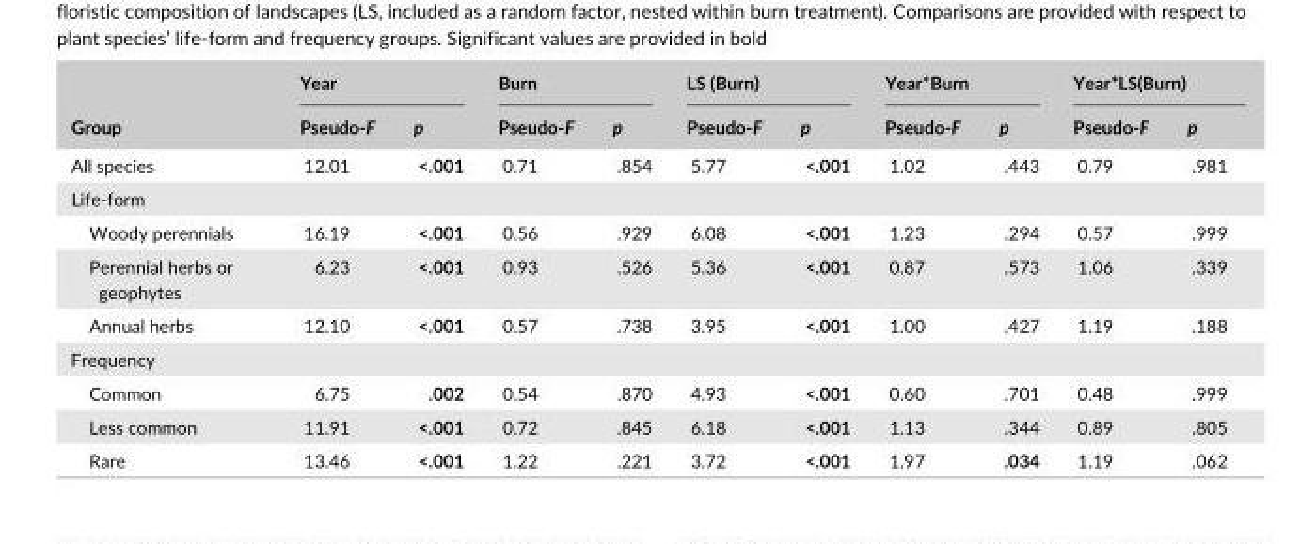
<table><thead><tr><td rowspan="2">Group</td><td colspan="2">Year</td><td colspan="2">Burn</td><td colspan="2">LS (Burn)</td><td colspan="2">Year*Burn</td><td colspan="2">Year*LS(Burn)</td></tr><tr><td>Pseudo- F</td><td>p</td><td>Pseudo- F</td><td>p</td><td>Pseudo- F</td><td>p</td><td>Pseudo- F</td><td>p</td><td>Pseudo- F</td><td>p</td></tr></thead><tbody><tr><td>All species</td><td>12.01</td><td>&lt;.001</td><td>0.71</td><td>.854</td><td>5.77</td><td>&lt;.001</td><td>1.02</td><td>.443</td><td>0.79</td><td>.981</td></tr><tr><td colspan="11">Life- form</td></tr><tr><td>Woody perennials</td><td>16.19</td><td>&lt;.001</td><td>0.56</td><td>.929</td><td>6.08</td><td>&lt;.001</td><td>1.23</td><td>.294</td><td>0.57</td><td>.999</td></tr><tr><td>Perennial herbs or geophytes</td><td>6.23</td><td>&lt;.001</td><td>0.93</td><td>.526</td><td>5.36</td><td>&lt;.001</td><td>0.87</td><td>.573</td><td>1.06</td><td>.339</td></tr><tr><td>Annual herbs</td><td>12.10</td><td>&lt;.001</td><td>0.57</td><td>.738</td><td>3.95</td><td>&lt;.001</td><td>1.00</td><td>.427</td><td>1.19</td><td>.188</td></tr><tr><td colspan="11">Frequency</td></tr><tr><td>Common</td><td>6.75</td><td>.002</td><td>0.54</td><td>.870</td><td>4.93</td><td>&lt;.001</td><td>0.60</td><td>.701</td><td>0.48</td><td>.999</td></tr><tr><td>Less common</td><td>11.91</td><td>&lt;.001</td><td>0.72</td><td>.845</td><td>6.18</td><td>&lt;.001</td><td>1.13</td><td>.344</td><td>0.89</td><td>.805</td></tr><tr><td>Rare</td><td>13.46</td><td>&lt;.001</td><td>1.22</td><td>.221</td><td>3.72</td><td>&lt;.001</td><td>1.97</td><td>.034</td><td>1.19</td><td>.062</td></tr></tbody></table>